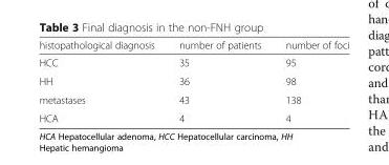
<table><thead><tr><td>histopathological diagnosis</td><td>number of patients</td><td>number of foci</td></tr></thead><tbody><tr><td>HCC</td><td>35</td><td>95</td></tr><tr><td>HH</td><td>36</td><td>98</td></tr><tr><td>metastases</td><td>43</td><td>138</td></tr><tr><td>HCA</td><td>4</td><td>4</td></tr></tbody></table>